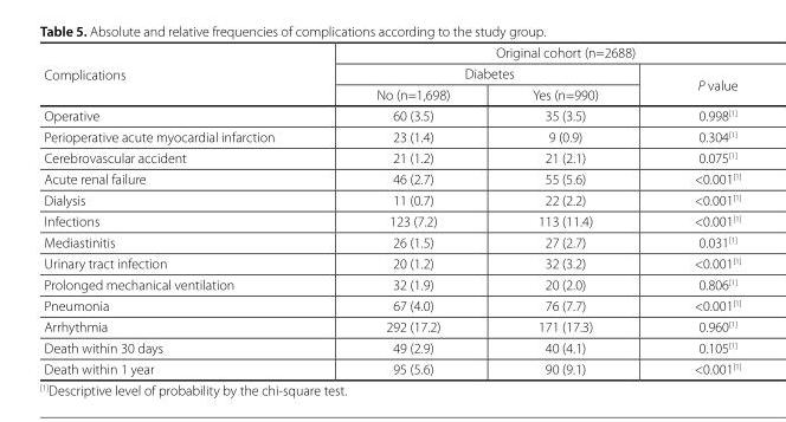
<table><thead><tr><td rowspan="3">Complications</td><td colspan="3">Original cohort (n=2688)</td></tr><tr><td colspan="2">Diabetes</td><td rowspan="2">P value</td></tr><tr><td>No (n=1,698)</td><td>Yes (n=990)</td></tr></thead><tbody><tr><td>Operative</td><td>60 (3.5)</td><td>35 (3.5)</td><td>0.998<sup>[1]</sup></td></tr><tr><td>Perioperative acute myocardial infarction</td><td>23 (1.4)</td><td>9 (0.9)</td><td>0.304<sup>[1]</sup></td></tr><tr><td>Cerebrovascular accident</td><td>21 (1.2)</td><td>21 (2.1)</td><td>0.075<sup>[1]</sup></td></tr><tr><td>Acute renal failure</td><td>46 (2.7)</td><td>55 (5.6)</td><td>&lt;0.001<sup>[1]</sup></td></tr><tr><td>Dialysis</td><td>11 (0.7)</td><td>22 (2.2)</td><td>&lt;0.001<sup>[1]</sup></td></tr><tr><td>Infections</td><td>123 (7.2)</td><td>113 (11.4)</td><td>&lt;0.001<sup>[1]</sup></td></tr><tr><td>Mediastinitis</td><td>26 (1.5)</td><td>27 (2.7)</td><td>0.031<sup>[1]</sup></td></tr><tr><td>Urinary tract infection</td><td>20 (1.2)</td><td>32 (3.2)</td><td>&lt;0.001<sup>[1]</sup></td></tr><tr><td>Prolonged mechanical ventilation</td><td>32 (1.9)</td><td>20 (2.0)</td><td>0.806<sup>[1]</sup></td></tr><tr><td>Pneumonia</td><td>67 (4.0)</td><td>76 (7.7)</td><td>&lt;0.001<sup>[1]</sup></td></tr><tr><td>Arrhythmia</td><td>292 (17.2)</td><td>171 (17.3)</td><td>0.960<sup>[1]</sup></td></tr><tr><td>Death within 30 days</td><td>49 (2.9)</td><td>40 (4.1)</td><td>0.105<sup>[1]</sup></td></tr><tr><td>Death within 1 year</td><td>95 (5.6)</td><td>90 (9.1)</td><td>&lt;0.001<sup>[1]</sup></td></tr></tbody></table>